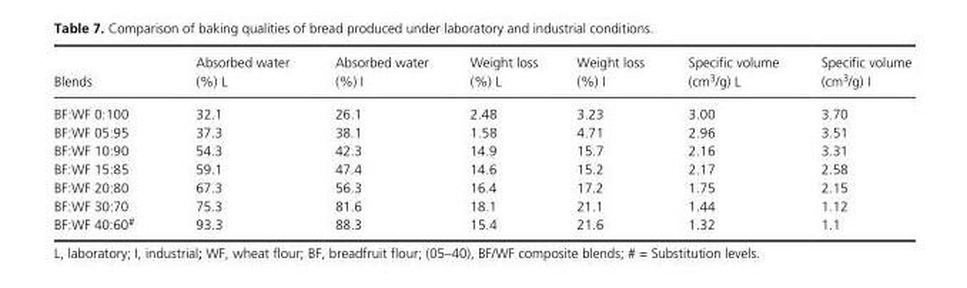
<table><thead><tr><td>Blends</td><td>Absorbed water (%) L</td><td>Absorbed water (%) I</td><td>Weight loss (%) L</td><td>Weight loss (%) I</td><td>Specific volume (cm<sup>3</sup>/g) L</td><td>Specific volume (cm<sup>3</sup>/g) I</td></tr></thead><tbody><tr><td>BF:WF 0:100</td><td>32.1</td><td>26.1</td><td>2.48</td><td>3.23</td><td>3.00</td><td>3.70</td></tr><tr><td>BF:WF 05:95</td><td>37.3</td><td>38.1</td><td>1.58</td><td>4.71</td><td>2.96</td><td>3.51</td></tr><tr><td>BF:WF 10:90</td><td>54.3</td><td>42.3</td><td>14.9</td><td>15.7</td><td>2.16</td><td>3.31</td></tr><tr><td>BF:WF 15:85</td><td>59.1</td><td>47.4</td><td>14.6</td><td>15.2</td><td>2.17</td><td>2.58</td></tr><tr><td>BF:WF 20:80</td><td>67.3</td><td>56.3</td><td>16.4</td><td>17.2</td><td>1.75</td><td>2.15</td></tr><tr><td>BF:WF 30:70</td><td>75.3</td><td>81.6</td><td>18.1</td><td>21.1</td><td>1.44</td><td>1.12</td></tr><tr><td>BF:WF 40:60<sup>#</sup></td><td>93.3</td><td>88.3</td><td>15.4</td><td>21.6</td><td>1.32</td><td>1.1</td></tr></tbody></table>